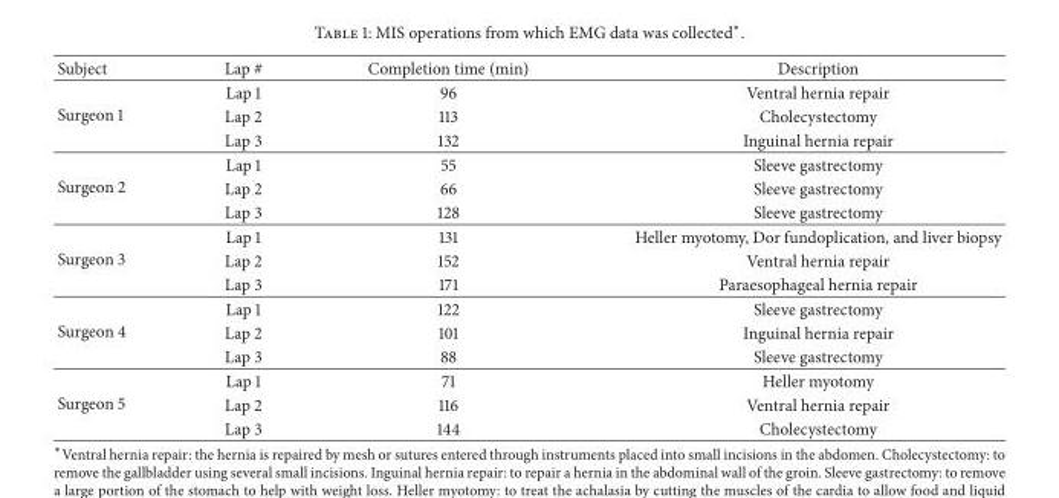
<table><thead><tr><td>Subject</td><td>Lap #</td><td>Completion time (min)</td><td>Description</td></tr></thead><tbody><tr><td rowspan="3">Surgeon 1</td><td>Lap 1</td><td>96</td><td>Ventral hernia repair</td></tr><tr><td>Lap 2</td><td>113</td><td>Cholecystectomy</td></tr><tr><td>Lap 3</td><td>132</td><td>Inguinal hernia repair</td></tr><tr><td rowspan="3">Surgeon 2</td><td>Lap 1</td><td>55</td><td>Sleeve gastrectomy</td></tr><tr><td>Lap 2</td><td>66</td><td>Sleeve gastrectomy</td></tr><tr><td>Lap 3</td><td>128</td><td>Sleeve gastrectomy</td></tr><tr><td rowspan="3">Surgeon 3</td><td>Lap 1</td><td>131</td><td>Heller myotomy, Dor fundoplication, and liver biopsy</td></tr><tr><td>Lap 2</td><td>152</td><td>Ventral hernia repair</td></tr><tr><td>Lap 3</td><td>171</td><td>Paraesophageal hernia repair</td></tr><tr><td rowspan="3">Surgeon 4</td><td>Lap 1</td><td>122</td><td>Sleeve gastrectomy</td></tr><tr><td>Lap 2</td><td>101</td><td>Inguinal hernia repair</td></tr><tr><td>Lap 3</td><td>88</td><td>Sleeve gastrectomy</td></tr><tr><td rowspan="3">Surgeon 5</td><td>Lap 1</td><td>71</td><td>Heller myotomy</td></tr><tr><td>Lap 2</td><td>116</td><td>Ventral hernia repair</td></tr><tr><td>Lap 3</td><td>144</td><td>Cholecystectomy</td></tr></tbody></table>